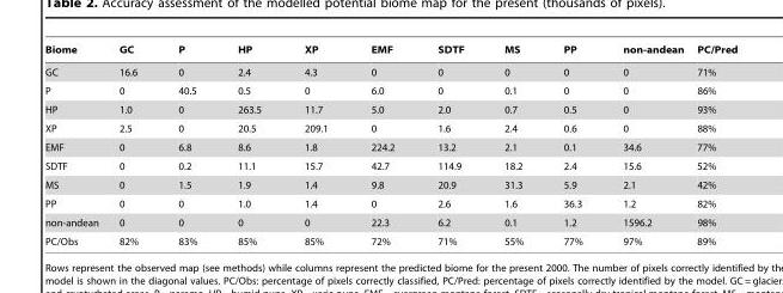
<table><thead><tr><td>Biome</td><td>GC</td><td>P</td><td>HP</td><td>XP</td><td>EMF</td><td>SDTF</td><td>MS</td><td>PP</td><td>non-andean</td><td>PC/Pred</td></tr></thead><tbody><tr><td>GC</td><td>16.6</td><td>0</td><td>2.4</td><td>4.3</td><td>0</td><td>0</td><td>0</td><td>0</td><td>0</td><td>71%</td></tr><tr><td>P</td><td>0</td><td>40.5</td><td>0.5</td><td>0</td><td>6.0</td><td>0</td><td>0.1</td><td>0</td><td>0</td><td>86%</td></tr><tr><td>HP</td><td>1.0</td><td>0</td><td>263.5</td><td>11.7</td><td>5.0</td><td>2.0</td><td>0.7</td><td>0.5</td><td>0</td><td>93%</td></tr><tr><td>XP</td><td>2.5</td><td>0</td><td>20.5</td><td>209.1</td><td>0</td><td>1.6</td><td>2.4</td><td>0.6</td><td>0</td><td>88%</td></tr><tr><td>EMF</td><td>0</td><td>6.8</td><td>8.6</td><td>1.8</td><td>224.2</td><td>13.2</td><td>2.1</td><td>0.1</td><td>34.6</td><td>77%</td></tr><tr><td>SDTF</td><td>0</td><td>0.2</td><td>11.1</td><td>15.7</td><td>42.7</td><td>114.9</td><td>18.2</td><td>2.4</td><td>15.6</td><td>52%</td></tr><tr><td>MS</td><td>0</td><td>1.5</td><td>1.9</td><td>1.4</td><td>9.8</td><td>20.9</td><td>31.3</td><td>5.9</td><td>2.1</td><td>42%</td></tr><tr><td>PP</td><td>0</td><td>0</td><td>1.0</td><td>1.4</td><td>0</td><td>2.6</td><td>1.6</td><td>36.3</td><td>1.2</td><td>82%</td></tr><tr><td>non-andean</td><td>0</td><td>0</td><td>0</td><td>0</td><td>22.3</td><td>6.2</td><td>0.1</td><td>1.2</td><td>1596.2</td><td>98%</td></tr><tr><td>PC/Obs</td><td>82%</td><td>83%</td><td>85%</td><td>85%</td><td>72%</td><td>71%</td><td>55%</td><td>77%</td><td>97%</td><td>89%</td></tr></tbody></table>